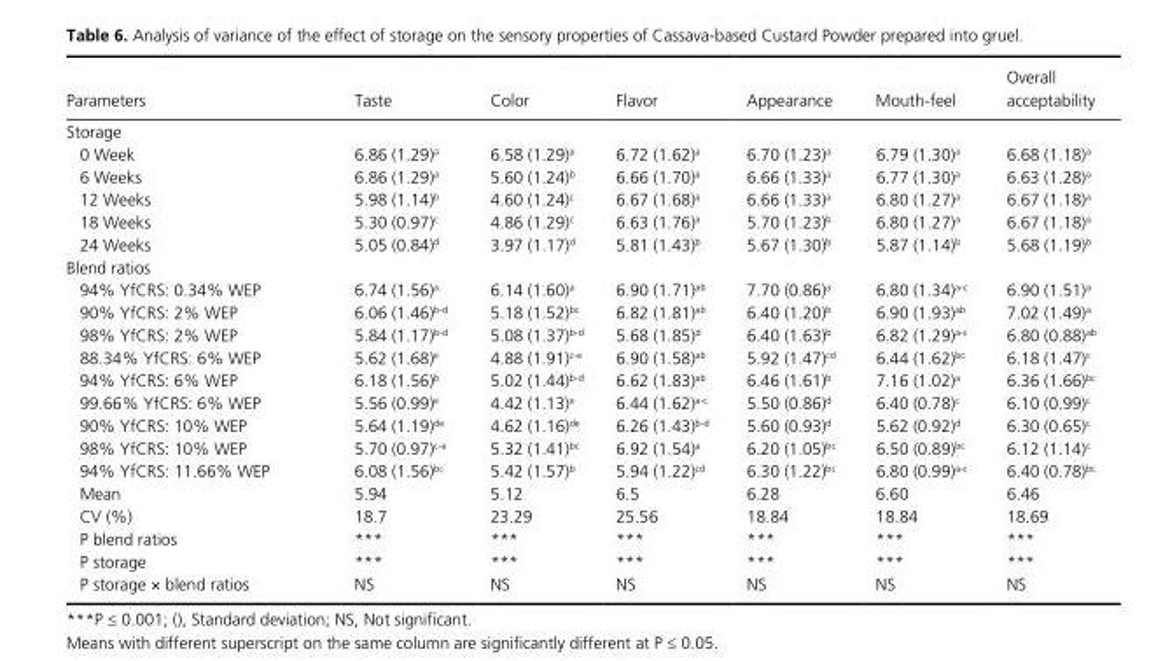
<table><thead><tr><td>Parameters</td><td>Taste</td><td>Color</td><td>Flavor</td><td>Appearance</td><td>Mouth- feel</td><td>Overall acceptability</td></tr></thead><tbody><tr><td colspan="7">Storage</td></tr><tr><td>0 Week</td><td>6.86 (1.29)<sup>a</sup></td><td>6.58 (1.29)<sup>a</sup></td><td>6.72 (1.62)<sup>a</sup></td><td>6.70 (1.23)<sup>a</sup></td><td>6.79 (1.30)<sup>a</sup></td><td>6.68 (1.18)<sup>a</sup></td></tr><tr><td>6 Weeks</td><td>6.86 (1.29)<sup>a</sup></td><td>5.60 (1.24)<sup>b</sup></td><td>6.66 (1.70)<sup>a</sup></td><td>6.66 (1.33)<sup>a</sup></td><td>6.77 (1.30)<sup>a</sup></td><td>6.63 (1.28)<sup>a</sup></td></tr><tr><td>12 Weeks</td><td>5.98 (1.14)<sup>b</sup></td><td>4.60 (1.24)<sup>c</sup></td><td>6.67 (1.68)<sup>a</sup></td><td>6.66 (1.33)<sup>a</sup></td><td>6.80 (1.27)<sup>a</sup></td><td>6.67 (1.18)<sup>a</sup></td></tr><tr><td>18 Weeks</td><td>5.30 (0.97)<sup>c</sup></td><td>4.86 (1.29)<sup>c</sup></td><td>6.63 (1.76)<sup>a</sup></td><td>5.70 (1.23)<sup>b</sup></td><td>6.80 (1.27)<sup>a</sup></td><td>6.67 (1.18)<sup>a</sup></td></tr><tr><td>24 Weeks</td><td>5.05 (0.84)<sup>d</sup></td><td>3.97 (1.17)<sup>d</sup></td><td>5.81 (1.43)<sup>b</sup></td><td>5.67 (1.30)<sup>b</sup></td><td>5.87 (1.14)<sup>b</sup></td><td>5.68 (1.19)<sup>b</sup></td></tr><tr><td colspan="7">Blend ratios</td></tr><tr><td>94% YfCRS: 0.34% WEP</td><td>6.74 (1.56)<sup>a</sup></td><td>6.14 (1.60)<sup>a</sup></td><td>6.90 (1.71)<sup>ab</sup></td><td>7.70 (0.86)<sup>a</sup></td><td>6.80 (1.34)<sup>a-c</sup></td><td>6.90 (1.51)<sup>a</sup></td></tr><tr><td>90% YfCRS: 2% WEP</td><td>6.06 (1.46)<sup>b-d</sup></td><td>5.18 (1.52)<sup>bc</sup></td><td>6.82 (1.81)<sup>ab</sup></td><td>6.40 (1.20)<sup>b</sup></td><td>6.90 (1.93)<sup>ab</sup></td><td>7.02 (1.49)<sup>a</sup></td></tr><tr><td>98% YfCRS: 2% WEP</td><td>5.84 (1.17)<sup>b-d</sup></td><td>5.08 (1.37)<sup>b-d</sup></td><td>5.68 (1.85)<sup>d</sup></td><td>6.40 (1.63)<sup>b</sup></td><td>6.82 (1.29)<sup>a-c</sup></td><td>6.80 (0.88)<sup>ab</sup></td></tr><tr><td>88.34% YfCRS: 6% WEP</td><td>5.62 (1.68)<sup>e</sup></td><td>4.88 (1.91)<sup>c-e</sup></td><td>6.90 (1.58)<sup>ab</sup></td><td>5.92 (1.47)<sup>cd</sup></td><td>6.44 (1.62)<sup>bc</sup></td><td>6.18 (1.47)<sup>c</sup></td></tr><tr><td>94% YfCRS: 6% WEP</td><td>6.18 (1.56)<sup>b</sup></td><td>5.02 (1.44)<sup>b-d</sup></td><td>6.62 (1.83)<sup>ab</sup></td><td>6.46 (1.61)<sup>b</sup></td><td>7.16 (1.02)<sup>a</sup></td><td>6.36 (1.66)<sup>bc</sup></td></tr><tr><td>99.66% YfCRS: 6% WEP</td><td>5.56 (0.99)<sup>e</sup></td><td>4.42 (1.13)<sup>e</sup></td><td>6.44 (1.62)<sup>a-c</sup></td><td>5.50 (0.86)<sup>d</sup></td><td>6.40 (0.78)<sup>c</sup></td><td>6.10 (0.99)<sup>c</sup></td></tr><tr><td>90% YfCRS: 10% WEP</td><td>5.64 (1.19)<sup>de</sup></td><td>4.62 (1.16)<sup>de</sup></td><td>6.26 (1.43)<sup>b-d</sup></td><td>5.60 (0.93)<sup>d</sup></td><td>5.62 (0.92)<sup>d</sup></td><td>6.30 (0.65)<sup>c</sup></td></tr><tr><td>98% YfCRS: 10% WEP</td><td>5.70 (0.97)<sup>c-e</sup></td><td>5.32 (1.41)<sup>bc</sup></td><td>6.92 (1.54)<sup>a</sup></td><td>6.20 (1.05)<sup>bc</sup></td><td>6.50 (0.89)<sup>bc</sup></td><td>6.12 (1.14)<sup>c</sup></td></tr><tr><td>94% YfCRS: 11.66% WEP</td><td>6.08 (1.56)<sup>bc</sup></td><td>5.42 (1.57)<sup>b</sup></td><td>5.94 (1.22)<sup>cd</sup></td><td>6.30 (1.22)<sup>bc</sup></td><td>6.80 (0.99)<sup>a-c</sup></td><td>6.40 (0.78)<sup>bc</sup></td></tr><tr><td>Mean</td><td>5.94</td><td>5.12</td><td>6.5</td><td>6.28</td><td>6.60</td><td>6.46</td></tr><tr><td>CV (%)</td><td>18.7</td><td>23.29</td><td>25.56</td><td>18.84</td><td>18.84</td><td>18.69</td></tr><tr><td>P blend ratios</td><td>***</td><td>***</td><td>***</td><td>***</td><td>***</td><td>***</td></tr><tr><td>P storage</td><td>***</td><td>***</td><td>***</td><td>***</td><td>***</td><td>***</td></tr><tr><td>P storage × blend ratios</td><td>NS</td><td>NS</td><td>NS</td><td>NS</td><td>NS</td><td>NS</td></tr></tbody></table>